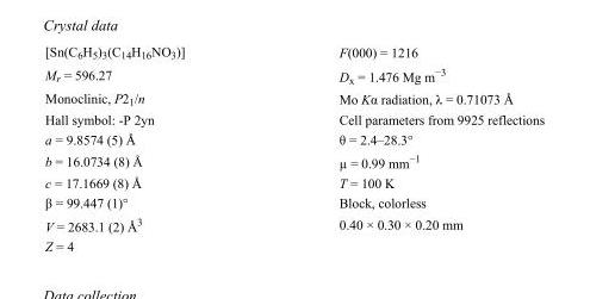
<table><tbody><tr><td>[Sn(C<sub>6</sub>H<sub>5</sub>)<sub>3</sub>(C<sub>14</sub>H<sub>16</sub>NO<sub>3</sub>)]</td><td>F(000) = 1216</td></tr><tr><td>M<sub>r</sub> = 596.27</td><td>D<sub>x</sub> = 1.476 Mg m<sup>−3</sup></td></tr><tr><td>Monoclinic, P2<sub>1</sub>/n</td><td>Mo Kα radiation, λ = 0.71073 Å</td></tr><tr><td>Hall symbol: -P 2yn</td><td>Cell parameters from 9925 reflections</td></tr><tr><td>a = 9.8574 (5) Å</td><td>θ = 2.4–28.3°</td></tr><tr><td>b = 16.0734 (8) Å</td><td>µ = 0.99 mm<sup>−1</sup></td></tr><tr><td>c = 17.1669 (8) Å</td><td>T = 100 K</td></tr><tr><td>β = 99.447 (1)°</td><td>Block, colorless</td></tr><tr><td>V = 2683.1 (2) Å<sup>3</sup></td><td>0.40 × 0.30 × 0.20 mm</td></tr><tr><td>Z = 4</td><td></td></tr></tbody></table>